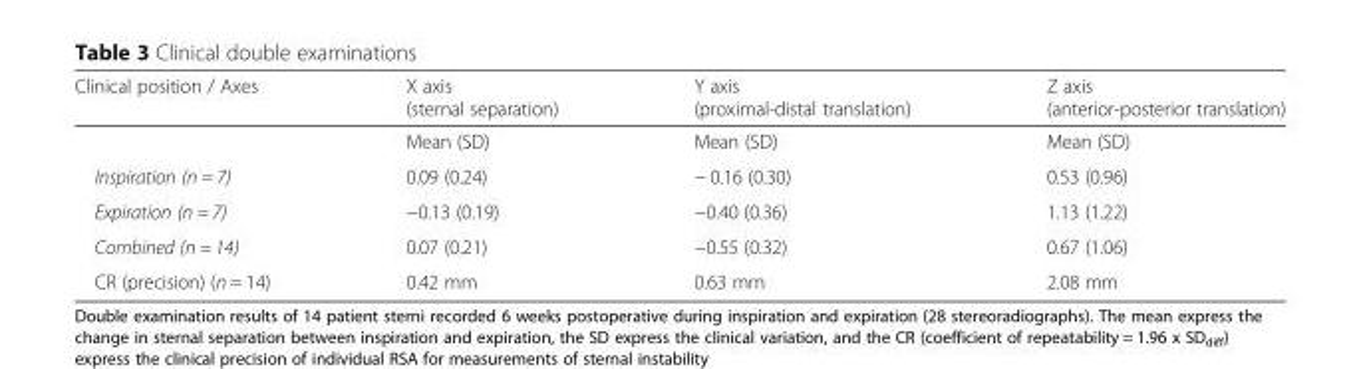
<table><thead><tr><td>Clinical position / Axes</td><td>X axis (sternal separation)</td><td>Y axis (proximal-distal translation)</td><td>Z axis (anterior-posterior translation)</td></tr></thead><tbody><tr><td></td><td>Mean (SD)</td><td>Mean (SD)</td><td>Mean (SD)</td></tr><tr><td>Inspiration (n = 7)</td><td>0.09 (0.24)</td><td>− 0.16 (0.30)</td><td>0.53 (0.96)</td></tr><tr><td>Expiration (n = 7)</td><td>−0.13 (0.19)</td><td>−0.40 (0.36)</td><td>1.13 (1.22)</td></tr><tr><td>Combined (n = 14)</td><td>0.07 (0.21)</td><td>−0.55 (0.32)</td><td>0.67 (1.06)</td></tr><tr><td>CR (precision) (n = 14)</td><td>0.42 mm</td><td>0.63 mm</td><td>2.08 mm</td></tr></tbody></table>